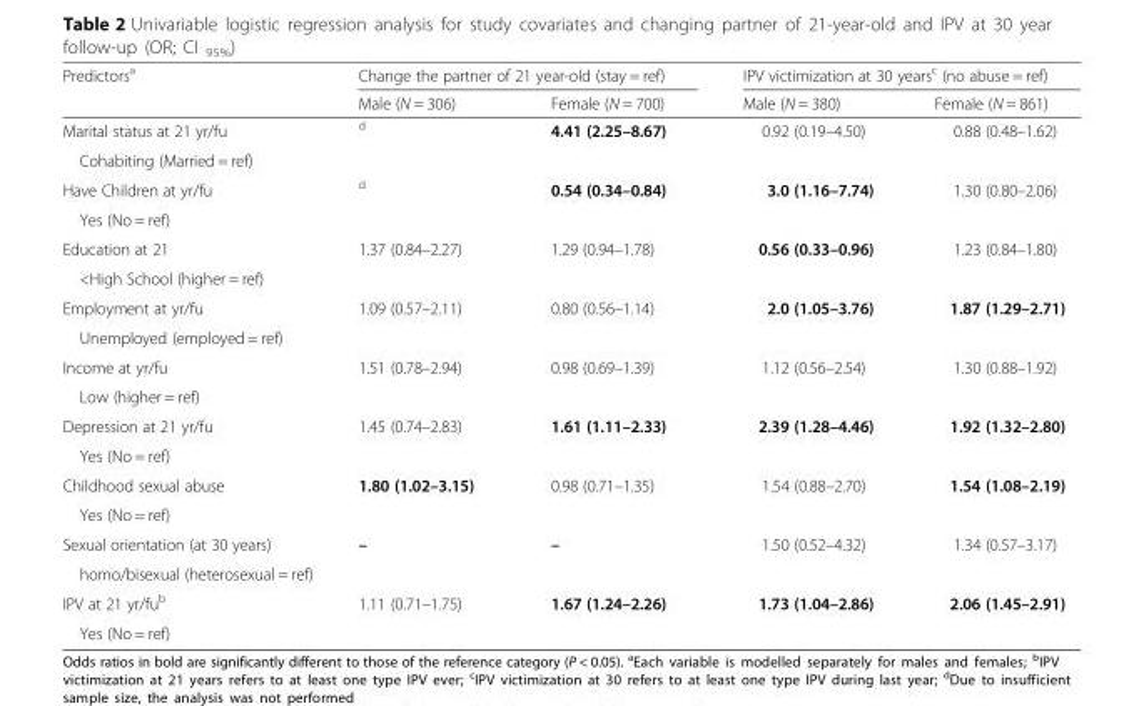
<table><thead><tr><td rowspan="2">Predictors<sup>a</sup></td><td colspan="2">Change the partner of 21 year-old (stay = ref)</td><td colspan="2">IPV victimization at 30 years<sup>c</sup> (no abuse = ref)</td></tr><tr><td>Male (N = 306)</td><td>Female (N = 700)</td><td>Male (N = 380)</td><td>Female (N = 861)</td></tr></thead><tbody><tr><td>Marital status at 21 yr/fu</td><td rowspan="2"><sup>d</sup></td><td rowspan="2">4.41 (2.25–8.67)</td><td rowspan="2">0.92 (0.19–4.50)</td><td rowspan="2">0.88 (0.48–1.62)</td></tr><tr><td>Cohabiting (Married = ref)</td></tr><tr><td>Have Children at yr/fu</td><td rowspan="2"><sup>d</sup></td><td rowspan="2">0.54 (0.34–0.84)</td><td rowspan="2">3.0 (1.16–7.74)</td><td rowspan="2">1.30 (0.80–2.06)</td></tr><tr><td>Yes (No = ref)</td></tr><tr><td>Education at 21</td><td rowspan="2">1.37 (0.84–2.27)</td><td rowspan="2">1.29 (0.94–1.78)</td><td rowspan="2">0.56 (0.33–0.96)</td><td rowspan="2">1.23 (0.84–1.80)</td></tr><tr><td>&lt;High School (higher = ref)</td></tr><tr><td>Employment at yr/fu</td><td rowspan="2">1.09 (0.57–2.11)</td><td rowspan="2">0.80 (0.56–1.14)</td><td rowspan="2">2.0 (1.05–3.76)</td><td rowspan="2">1.87 (1.29–2.71)</td></tr><tr><td>Unemployed (employed = ref)</td></tr><tr><td>Income at yr/fu</td><td rowspan="2">1.51 (0.78–2.94)</td><td rowspan="2">0.98 (0.69–1.39)</td><td rowspan="2">1.12 (0.56–2.54)</td><td rowspan="2">1.30 (0.88–1.92)</td></tr><tr><td>Low (higher = ref)</td></tr><tr><td>Depression at 21 yr/fu</td><td rowspan="2">1.45 (0.74–2.83)</td><td rowspan="2">1.61 (1.11–2.33)</td><td rowspan="2">2.39 (1.28–4.46)</td><td rowspan="2">1.92 (1.32–2.80)</td></tr><tr><td>Yes (No = ref)</td></tr><tr><td>Childhood sexual abuse</td><td rowspan="2">1.80 (1.02–3.15)</td><td rowspan="2">0.98 (0.71–1.35)</td><td rowspan="2">1.54 (0.88–2.70)</td><td rowspan="2">1.54 (1.08–2.19)</td></tr><tr><td>Yes (No = ref)</td></tr><tr><td>Sexual orientation (at 30 years)</td><td rowspan="2">–</td><td rowspan="2">–</td><td rowspan="2">1.50 (0.52–4.32)</td><td rowspan="2">1.34 (0.57–3.17)</td></tr><tr><td>homo/bisexual (heterosexual = ref)</td></tr><tr><td>IPV at 21 yr/fu<sup>b</sup></td><td rowspan="2">1.11 (0.71–1.75)</td><td rowspan="2">1.67 (1.24–2.26)</td><td rowspan="2">1.73 (1.04–2.86)</td><td rowspan="2">2.06 (1.45–2.91)</td></tr><tr><td>Yes (No = ref)</td></tr></tbody></table>